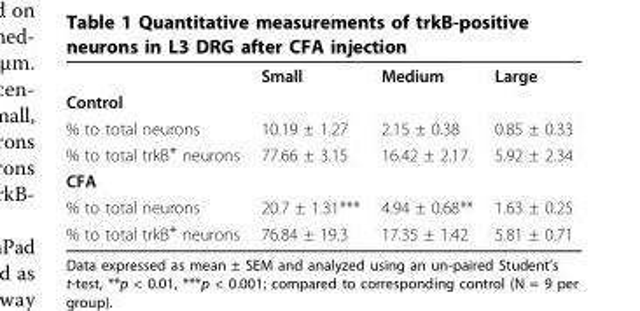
<table><thead><tr><td></td><td>Small</td><td>Medium</td><td>Large</td></tr></thead><tbody><tr><td colspan="4">Control</td></tr><tr><td>% to total neurons</td><td>10.19 ± 1.27</td><td>2.15 ± 0.38</td><td>0.85 ± 0.33</td></tr><tr><td>% to total trkB<sup>+</sup> neurons</td><td>77.66 ± 3.15</td><td>16.42 ± 2.17</td><td>5.92 ± 2.34</td></tr><tr><td colspan="4">CFA</td></tr><tr><td>% to total neurons</td><td>20.7 ± 1.31***</td><td>4.94 ± 0.68**</td><td>1.63 ± 0.25</td></tr><tr><td>% to total trkB<sup>+</sup> neurons</td><td>76.84 ± 19.3</td><td>17.35 ± 1.42</td><td>5.81 ± 0.71</td></tr></tbody></table>